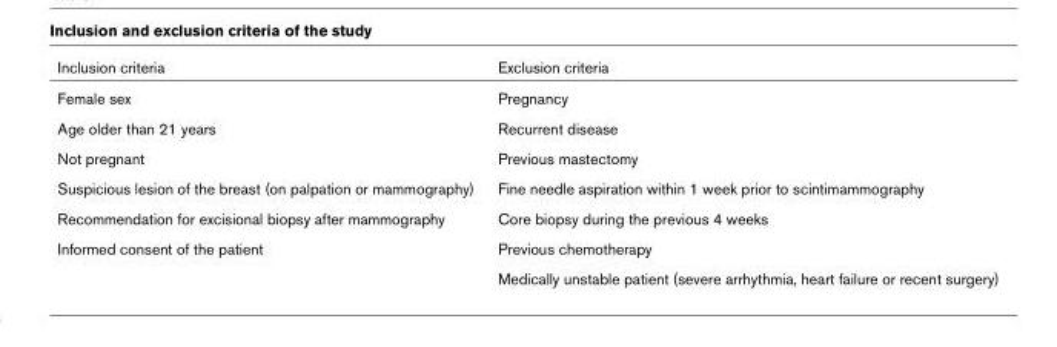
<table><thead><tr><td>Inclusion criteria</td><td>Exclusion criteria</td></tr></thead><tbody><tr><td>Female sex</td><td>Pregnancy</td></tr><tr><td>Age older than 21 years</td><td>Recurrent disease</td></tr><tr><td>Not pregnant</td><td>Previous mastectomy</td></tr><tr><td>Suspicious lesion of the breast (on palpation or mammography)</td><td>Fine needle aspiration within 1 week prior to scintimammography</td></tr><tr><td>Recommendation for excisional biopsy after mammography</td><td>Core biopsy during the previous 4 weeks</td></tr><tr><td rowspan="2">Informed consent of the patient</td><td>Previous chemotherapy</td></tr><tr><td>Medically unstable patient (severe arrhythmia, heart failure or recent surgery)</td></tr></tbody></table>